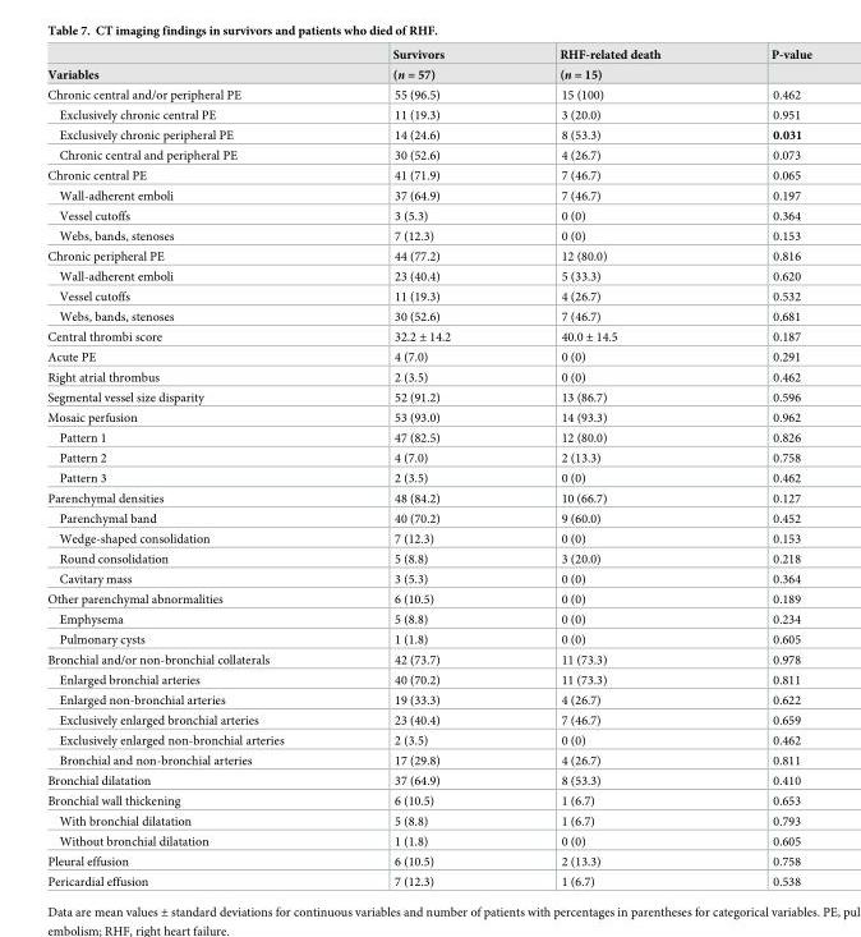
<table><thead><tr><td rowspan="2">Variables</td><td rowspan="2">Survivors (n = 57)</td><td rowspan="2">RHF-related death (n = 15)</td><td rowspan="2">P-value</td></tr><tr></tr></thead><tbody><tr><td>Chronic central and/or peripheral PE</td><td>55 (96.5)</td><td>15 (100)</td><td>0.462</td></tr><tr><td>Exclusively chronic central PE</td><td>11 (19.3)</td><td>3 (20.0)</td><td>0.951</td></tr><tr><td>Exclusively chronic peripheral PE</td><td>14 (24.6)</td><td>8 (53.3)</td><td>0.031</td></tr><tr><td>Chronic central and peripheral PE</td><td>30 (52.6)</td><td>4 (26.7)</td><td>0.073</td></tr><tr><td>Chronic central PE</td><td>41 (71.9)</td><td>7 (46.7)</td><td>0.065</td></tr><tr><td>Wall-adherent emboli</td><td>37 (64.9)</td><td>7 (46.7)</td><td>0.197</td></tr><tr><td>Vessel cutoffs</td><td>3 (5.3)</td><td>0 (0)</td><td>0.364</td></tr><tr><td>Webs, bands, stenoses</td><td>7 (12.3)</td><td>0 (0)</td><td>0.153</td></tr><tr><td>Chronic peripheral PE</td><td>44 (77.2)</td><td>12 (80.0)</td><td>0.816</td></tr><tr><td>Wall-adherent emboli</td><td>23 (40.4)</td><td>5 (33.3)</td><td>0.620</td></tr><tr><td>Vessel cutoffs</td><td>11 (19.3)</td><td>4 (26.7)</td><td>0.532</td></tr><tr><td>Webs, bands, stenoses</td><td>30 (52.6)</td><td>7 (46.7)</td><td>0.681</td></tr><tr><td>Central thrombi score</td><td>32.2 ± 14.2</td><td>40.0 ± 14.5</td><td>0.187</td></tr><tr><td>Acute PE</td><td>4 (7.0)</td><td>0 (0)</td><td>0.291</td></tr><tr><td>Right atrial thrombus</td><td>2 (3.5)</td><td>0 (0)</td><td>0.462</td></tr><tr><td>Segmental vessel size disparity</td><td>52 (91.2)</td><td>13 (86.7)</td><td>0.596</td></tr><tr><td>Mosaic perfusion</td><td>53 (93.0)</td><td>14 (93.3)</td><td>0.962</td></tr><tr><td>Pattern 1</td><td>47 (82.5)</td><td>12 (80.0)</td><td>0.826</td></tr><tr><td>Pattern 2</td><td>4 (7.0)</td><td>2 (13.3)</td><td>0.758</td></tr><tr><td>Pattern 3</td><td>2 (3.5)</td><td>0 (0)</td><td>0.462</td></tr><tr><td>Parenchymal densities</td><td>48 (84.2)</td><td>10 (66.7)</td><td>0.127</td></tr><tr><td>Parenchymal band</td><td>40 (70.2)</td><td>9 (60.0)</td><td>0.452</td></tr><tr><td>Wedge-shaped consolidation</td><td>7 (12.3)</td><td>0 (0)</td><td>0.153</td></tr><tr><td>Round consolidation</td><td>5 (8.8)</td><td>3 (20.0)</td><td>0.218</td></tr><tr><td>Cavitary mass</td><td>3 (5.3)</td><td>0 (0)</td><td>0.364</td></tr><tr><td>Other parenchymal abnormalities</td><td>6 (10.5)</td><td>0 (0)</td><td>0.189</td></tr><tr><td>Emphysema</td><td>5 (8.8)</td><td>0 (0)</td><td>0.234</td></tr><tr><td>Pulmonary cysts</td><td>1 (1.8)</td><td>0 (0)</td><td>0.605</td></tr><tr><td>Bronchial and/or non-bronchial collaterals</td><td>42 (73.7)</td><td>11 (73.3)</td><td>0.978</td></tr><tr><td>Enlarged bronchial arteries</td><td>40 (70.2)</td><td>11 (73.3)</td><td>0.811</td></tr><tr><td>Enlarged non-bronchial arteries</td><td>19 (33.3)</td><td>4 (26.7)</td><td>0.622</td></tr><tr><td>Exclusively enlarged bronchial arteries</td><td>23 (40.4)</td><td>7 (46.7)</td><td>0.659</td></tr><tr><td>Exclusively enlarged non-bronchial arteries</td><td>2 (3.5)</td><td>0 (0)</td><td>0.462</td></tr><tr><td>Bronchial and non-bronchial arteries</td><td>17 (29.8)</td><td>4 (26.7)</td><td>0.811</td></tr><tr><td>Bronchial dilatation</td><td>37 (64.9)</td><td>8 (53.3)</td><td>0.410</td></tr><tr><td>Bronchial wall thickening</td><td>6 (10.5)</td><td>1 (6.7)</td><td>0.653</td></tr><tr><td>With bronchial dilatation</td><td>5 (8.8)</td><td>1 (6.7)</td><td>0.793</td></tr><tr><td>Without bronchial dilatation</td><td>1 (1.8)</td><td>0 (0)</td><td>0.605</td></tr><tr><td>Pleural effusion</td><td>6 (10.5)</td><td>2 (13.3)</td><td>0.758</td></tr><tr><td>Pericardial effusion</td><td>7 (12.3)</td><td>1 (6.7)</td><td>0.538</td></tr></tbody></table>